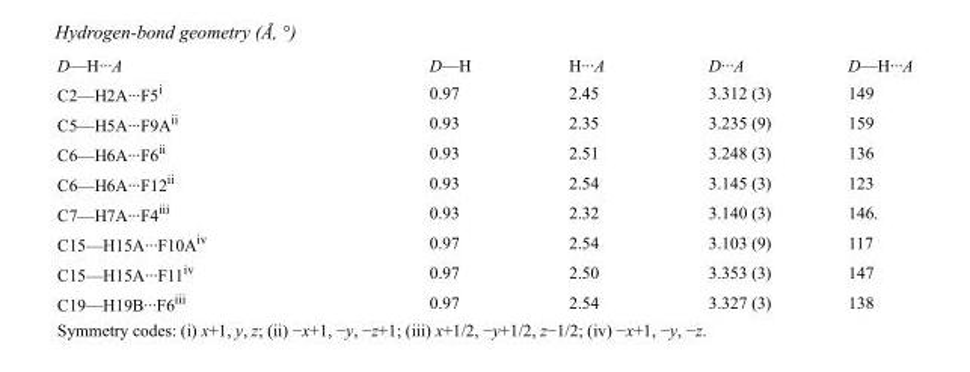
<table><tbody><tr><td>D—H···A</td><td>D—H</td><td>H···A</td><td>D···A</td><td>D—H···A</td></tr><tr><td>C2—H2A···F5<sup>i</sup></td><td>0.97</td><td>2.45</td><td>3.312 (3)</td><td>149</td></tr><tr><td>C5—H5A···F9A<sup>ii</sup></td><td>0.93</td><td>2.35</td><td>3.235 (9)</td><td>159</td></tr><tr><td>C6—H6A···F6<sup>ii</sup></td><td>0.93</td><td>2.51</td><td>3.248 (3)</td><td>136</td></tr><tr><td>C6—H6A···F12<sup>ii</sup></td><td>0.93</td><td>2.54</td><td>3.145 (3)</td><td>123</td></tr><tr><td>C7—H7A···F4<sup>iii</sup></td><td>0.93</td><td>2.32</td><td>3.140 (3)</td><td>146.</td></tr><tr><td>C15—H15A···F10A<sup>iv</sup></td><td>0.97</td><td>2.54</td><td>3.103 (9)</td><td>117</td></tr><tr><td>C15—H15A···F11<sup>iv</sup></td><td>0.97</td><td>2.50</td><td>3.353 (3)</td><td>147</td></tr><tr><td>C19—H19B···F6<sup>iii</sup></td><td>0.97</td><td>2.54</td><td>3.327 (3)</td><td>138</td></tr></tbody></table>